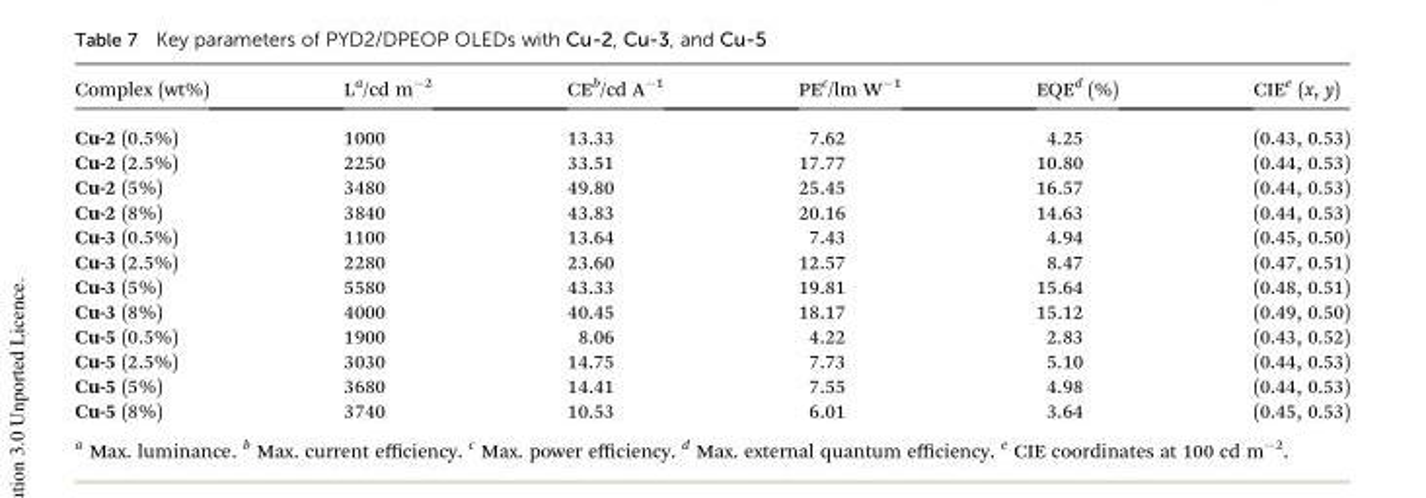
<table><thead><tr><td>Complex (wt%)</td><td>L<sup>a</sup>/cd m<sup>–2</sup></td><td>CE<sup>b</sup>/cd A<sup>–1</sup></td><td>PE<sup>c</sup>/lm W<sup>–1</sup></td><td>EQE<sup>d</sup> (%)</td><td>CIE<sup>e</sup> (x, y)</td></tr></thead><tbody><tr><td>Cu-2 (0.5%)</td><td>1000</td><td>13.33</td><td>7.62</td><td>4.25</td><td>(0.43, 0.53)</td></tr><tr><td>Cu-2 (2.5%)</td><td>2250</td><td>33.51</td><td>17.77</td><td>10.80</td><td>(0.44, 0.53)</td></tr><tr><td>Cu-2 (5%)</td><td>3480</td><td>49.80</td><td>25.45</td><td>16.57</td><td>(0.44, 0.53)</td></tr><tr><td>Cu-2 (8%)</td><td>3840</td><td>43.83</td><td>20.16</td><td>14.63</td><td>(0.44, 0.53)</td></tr><tr><td>Cu-3 (0.5%)</td><td>1100</td><td>13.64</td><td>7.43</td><td>4.94</td><td>(0.45, 0.50)</td></tr><tr><td>Cu-3 (2.5%)</td><td>2280</td><td>23.60</td><td>12.57</td><td>8.47</td><td>(0.47, 0.51)</td></tr><tr><td>Cu-3 (5%)</td><td>5580</td><td>43.33</td><td>19.81</td><td>15.64</td><td>(0.48, 0.51)</td></tr><tr><td>Cu-3 (8%)</td><td>4000</td><td>40.45</td><td>18.17</td><td>15.12</td><td>(0.49, 0.50)</td></tr><tr><td>Cu-5 (0.5%)</td><td>1900</td><td>8.06</td><td>4.22</td><td>2.83</td><td>(0.43, 0.52)</td></tr><tr><td>Cu-5 (2.5%)</td><td>3030</td><td>14.75</td><td>7.73</td><td>5.10</td><td>(0.44, 0.53)</td></tr><tr><td>Cu-5 (5%)</td><td>3680</td><td>14.41</td><td>7.55</td><td>4.98</td><td>(0.44, 0.53)</td></tr><tr><td>Cu-5 (8%)</td><td>3740</td><td>10.53</td><td>6.01</td><td>3.64</td><td>(0.45, 0.53)</td></tr></tbody></table>